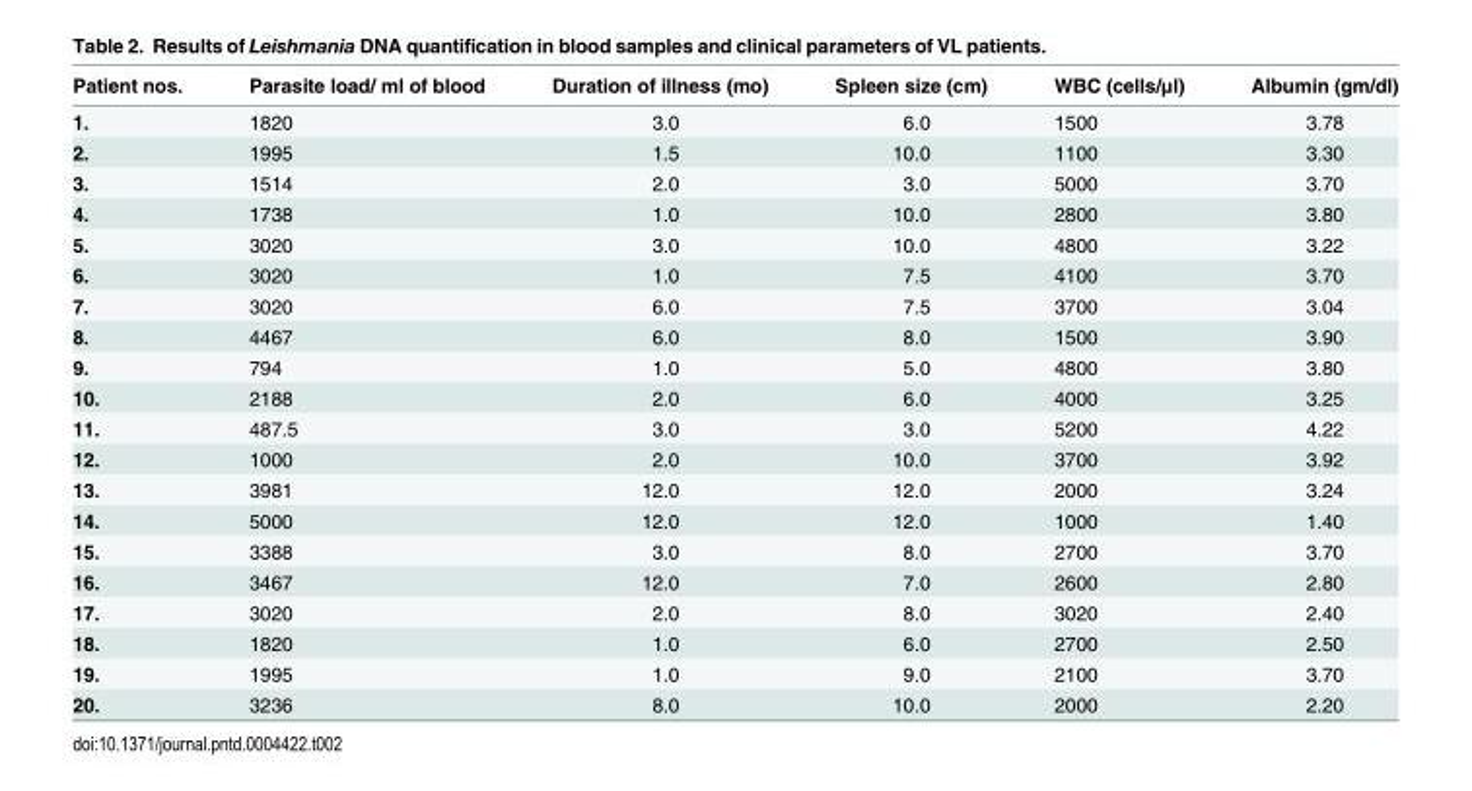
<table><thead><tr><td>Patient nos.</td><td>Parasite load/ ml of blood</td><td>Duration of illness (mo)</td><td>Spleen size (cm)</td><td>WBC (cells/μl)</td><td>Albumin (gm/dl)</td></tr></thead><tbody><tr><td>1.</td><td>1820</td><td>3.0</td><td>6.0</td><td>1500</td><td>3.78</td></tr><tr><td>2.</td><td>1995</td><td>1.5</td><td>10.0</td><td>1100</td><td>3.30</td></tr><tr><td>3.</td><td>1514</td><td>2.0</td><td>3.0</td><td>5000</td><td>3.70</td></tr><tr><td>4.</td><td>1738</td><td>1.0</td><td>10.0</td><td>2800</td><td>3.80</td></tr><tr><td>5.</td><td>3020</td><td>3.0</td><td>10.0</td><td>4800</td><td>3.22</td></tr><tr><td>6.</td><td>3020</td><td>1.0</td><td>7.5</td><td>4100</td><td>3.70</td></tr><tr><td>7.</td><td>3020</td><td>6.0</td><td>7.5</td><td>3700</td><td>3.04</td></tr><tr><td>8.</td><td>4467</td><td>6.0</td><td>8.0</td><td>1500</td><td>3.90</td></tr><tr><td>9.</td><td>794</td><td>1.0</td><td>5.0</td><td>4800</td><td>3.80</td></tr><tr><td>10.</td><td>2188</td><td>2.0</td><td>6.0</td><td>4000</td><td>3.25</td></tr><tr><td>11.</td><td>487.5</td><td>3.0</td><td>3.0</td><td>5200</td><td>4.22</td></tr><tr><td>12.</td><td>1000</td><td>2.0</td><td>10.0</td><td>3700</td><td>3.92</td></tr><tr><td>13.</td><td>3981</td><td>12.0</td><td>12.0</td><td>2000</td><td>3.24</td></tr><tr><td>14.</td><td>5000</td><td>12.0</td><td>12.0</td><td>1000</td><td>1.40</td></tr><tr><td>15.</td><td>3388</td><td>3.0</td><td>8.0</td><td>2700</td><td>3.70</td></tr><tr><td>16.</td><td>3467</td><td>12.0</td><td>7.0</td><td>2600</td><td>2.80</td></tr><tr><td>17.</td><td>3020</td><td>2.0</td><td>8.0</td><td>3020</td><td>2.40</td></tr><tr><td>18.</td><td>1820</td><td>1.0</td><td>6.0</td><td>2700</td><td>2.50</td></tr><tr><td>19.</td><td>1995</td><td>1.0</td><td>9.0</td><td>2100</td><td>3.70</td></tr><tr><td>20.</td><td>3236</td><td>8.0</td><td>10.0</td><td>2000</td><td>2.20</td></tr></tbody></table>